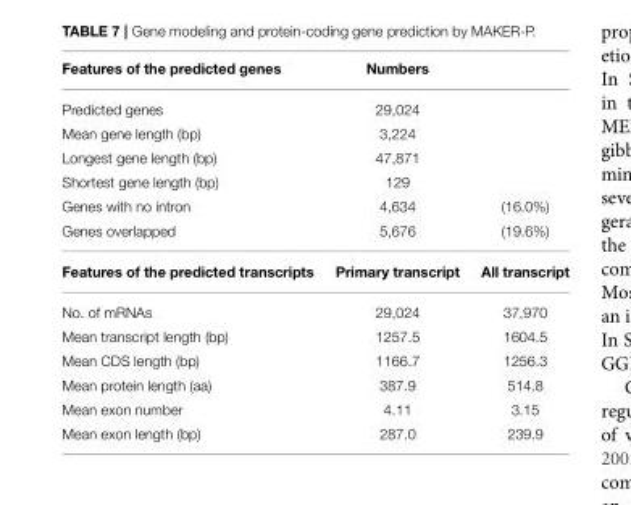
<table><thead><tr><td>Features of the predicted genes</td><td>Numbers</td><td></td></tr></thead><tbody><tr><td>Predicted genes</td><td>29,024</td><td></td></tr><tr><td>Mean gene length (bp)</td><td>3,224</td><td></td></tr><tr><td>Longest gene length (bp)</td><td>47,871</td><td></td></tr><tr><td>Shortest gene length (bp)</td><td>129</td><td></td></tr><tr><td>Genes with no intron</td><td>4,634</td><td>(16.0%)</td></tr><tr><td>Genes overlapped</td><td>5,676</td><td>(19.6%)</td></tr><tr><td>Features of the predicted transcripts</td><td>Primary transcript</td><td>All transcript</td></tr><tr><td>No. of mRNAs</td><td>29,024</td><td>37,970</td></tr><tr><td>Mean transcript length (bp)</td><td>1257.5</td><td>1604.5</td></tr><tr><td>Mean CDS length (bp)</td><td>1166.7</td><td>1256.3</td></tr><tr><td>Mean protein length (aa)</td><td>387.9</td><td>514.8</td></tr><tr><td>Mean exon number</td><td>4.11</td><td>3.15</td></tr><tr><td>Mean exon length (bp)</td><td>287.0</td><td>239.9</td></tr></tbody></table>